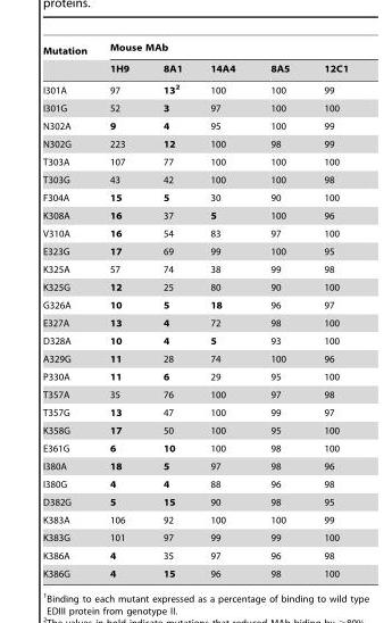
<table><thead><tr><td rowspan="2">Mutation</td><td colspan="5">Mouse MAb</td></tr><tr><td>1H9</td><td>8A1</td><td>14A4</td><td>8A5</td><td>12C1</td></tr></thead><tbody><tr><td>I301A</td><td>97</td><td>132</td><td>100</td><td>100</td><td>99</td></tr><tr><td>I301G</td><td>52</td><td>3</td><td>97</td><td>100</td><td>100</td></tr><tr><td>N302A</td><td>9</td><td>4</td><td>95</td><td>100</td><td>99</td></tr><tr><td>N302G</td><td>223</td><td>12</td><td>100</td><td>98</td><td>99</td></tr><tr><td>T303A</td><td>107</td><td>77</td><td>100</td><td>100</td><td>100</td></tr><tr><td>T303G</td><td>43</td><td>42</td><td>100</td><td>100</td><td>98</td></tr><tr><td>F304A</td><td>15</td><td>5</td><td>30</td><td>90</td><td>100</td></tr><tr><td>K308A</td><td>16</td><td>37</td><td>5</td><td>100</td><td>96</td></tr><tr><td>V310A</td><td>16</td><td>54</td><td>83</td><td>97</td><td>100</td></tr><tr><td>E323G</td><td>17</td><td>69</td><td>99</td><td>100</td><td>95</td></tr><tr><td>K325A</td><td>57</td><td>74</td><td>38</td><td>99</td><td>98</td></tr><tr><td>K325G</td><td>12</td><td>25</td><td>80</td><td>90</td><td>100</td></tr><tr><td>G326A</td><td>10</td><td>5</td><td>18</td><td>96</td><td>97</td></tr><tr><td>E327A</td><td>13</td><td>4</td><td>72</td><td>98</td><td>100</td></tr><tr><td>D328A</td><td>10</td><td>4</td><td>5</td><td>93</td><td>100</td></tr><tr><td>A329G</td><td>11</td><td>28</td><td>74</td><td>100</td><td>96</td></tr><tr><td>P330A</td><td>11</td><td>6</td><td>29</td><td>95</td><td>100</td></tr><tr><td>T357A</td><td>35</td><td>76</td><td>100</td><td>97</td><td>98</td></tr><tr><td>T357G</td><td>13</td><td>47</td><td>100</td><td>99</td><td>97</td></tr><tr><td>K358G</td><td>17</td><td>50</td><td>100</td><td>95</td><td>100</td></tr><tr><td>E361G</td><td>6</td><td>10</td><td>100</td><td>98</td><td>100</td></tr><tr><td>I380A</td><td>18</td><td>5</td><td>97</td><td>98</td><td>96</td></tr><tr><td>I380G</td><td>4</td><td>4</td><td>88</td><td>96</td><td>98</td></tr><tr><td>D382G</td><td>5</td><td>15</td><td>90</td><td>98</td><td>95</td></tr><tr><td>K383A</td><td>106</td><td>92</td><td>100</td><td>100</td><td>99</td></tr><tr><td>K383G</td><td>101</td><td>97</td><td>99</td><td>99</td><td>100</td></tr><tr><td>K386A</td><td>4</td><td>35</td><td>97</td><td>96</td><td>98</td></tr><tr><td>K386G</td><td>4</td><td>15</td><td>96</td><td>98</td><td>100</td></tr></tbody></table>